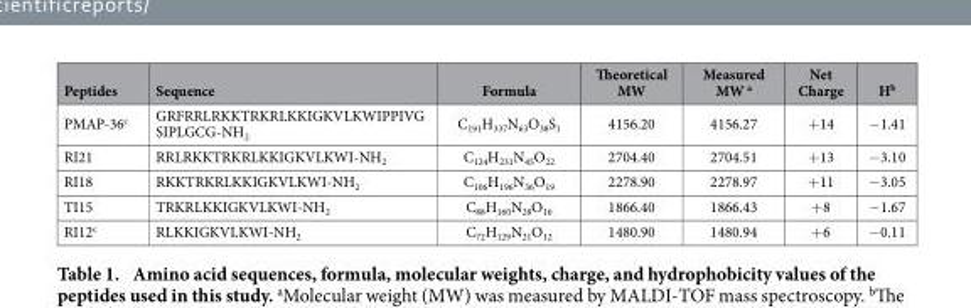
<table><thead><tr><td>Peptides</td><td>Sequence</td><td>Formula</td><td>Theoretical MW</td><td>Measured MW a</td><td>Net Charge</td><td>H<sup>b</sup></td></tr></thead><tbody><tr><td>PMAP-36<sup>c</sup></td><td>GRFRRLRKKTRKRLKKIGKVLKWIPPIVG SIPLGCG-NH<sub>2</sub></td><td>C<sub>191</sub>H<sub>337</sub>N<sub>63</sub>O<sub>38</sub>S<sub>1</sub></td><td>4156.20</td><td>4156.27</td><td>+ 14</td><td>−1.41</td></tr><tr><td>RI21</td><td>RRLRKKTRKRLKKIGKVLKWI-NH<sub>2</sub></td><td>C<sub>124</sub>H<sub>231</sub>N<sub>45</sub>O<sub>22</sub></td><td>2704.40</td><td>2704.51</td><td>+ 13</td><td>−3.10</td></tr><tr><td>RI18</td><td>RKKTRKRLKKIGKVLKWI-NH<sub>2</sub></td><td>C<sub>106</sub>H<sub>196</sub>N<sub>36</sub>O<sub>19</sub></td><td>2278.90</td><td>2278.97</td><td>+ 11</td><td>−3.05</td></tr><tr><td>TI15</td><td>TRKRLKKIGKVLKWI-NH<sub>2</sub></td><td>C<sub>88</sub>H<sub>160</sub>N<sub>28</sub>O<sub>16</sub></td><td>1866.40</td><td>1866.43</td><td>+ 8</td><td>−1.67</td></tr><tr><td>RI12<sup>c</sup></td><td>RLKKIGKVLKWI-NH<sub>2</sub></td><td>C<sub>72</sub>H<sub>129</sub>N<sub>21</sub>O<sub>12</sub></td><td>1480.90</td><td>1480.94</td><td>+ 6</td><td>−0.11</td></tr></tbody></table>